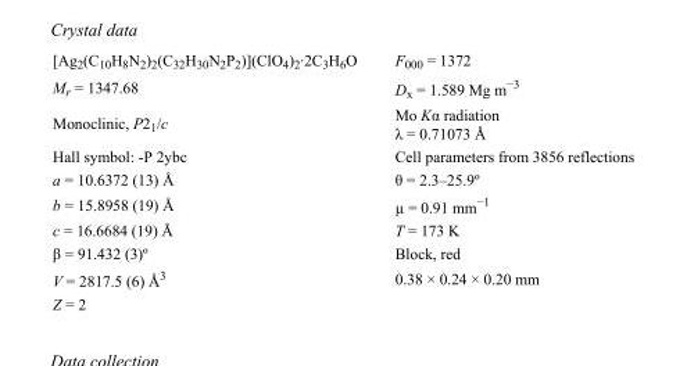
<table><tbody><tr><td>[Ag<sub>2</sub>(C<sub>10</sub>H<sub>8</sub>N<sub>2</sub>)<sub>2</sub>(C<sub>32</sub>H<sub>30</sub>N<sub>2</sub>P<sub>2</sub>)](ClO<sub>4</sub>)<sub>2</sub>·2C<sub>3</sub>H<sub>6</sub>O</td><td>F000 = 1372</td></tr><tr><td>M<sub>r</sub> = 1347.68</td><td>D<sub>x</sub> = 1.589 Mg m<sup>−3</sup></td></tr><tr><td>Monoclinic, P2<sub>1</sub>/c</td><td>Mo Kα radiation λ = 0.71073 Å</td></tr><tr><td>Hall symbol: -P 2ybc</td><td>Cell parameters from 3856 reflections</td></tr><tr><td>a = 10.6372 (13) Å</td><td>θ = 2.3–25.9º</td></tr><tr><td>b = 15.8958 (19) Å</td><td>µ = 0.91 mm<sup>−1</sup></td></tr><tr><td>c = 16.6684 (19) Å</td><td>T = 173 K</td></tr><tr><td>β = 91.432 (3)º</td><td>Block, red</td></tr><tr><td>V = 2817.5 (6) Å<sup>3</sup></td><td>0.38 × 0.24 × 0.20 mm</td></tr><tr><td>Z = 2</td><td></td></tr></tbody></table>